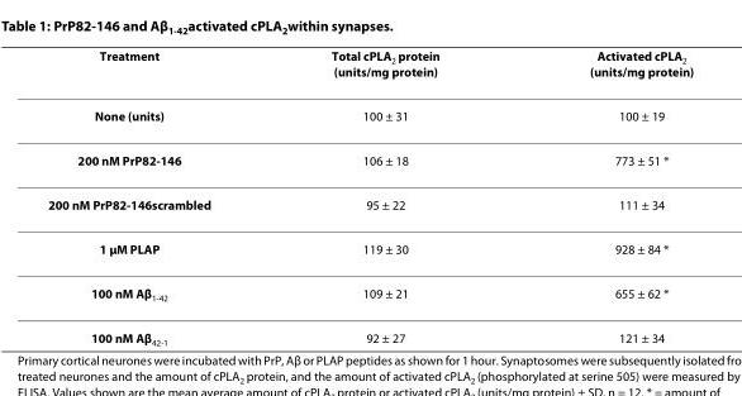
<table><thead><tr><td>Treatment</td><td>Total cPLA<sub>2</sub> protein (units/mg protein)</td><td>Activated cPLA<sub>2</sub> (units/mg protein)</td></tr></thead><tbody><tr><td>None (units)</td><td>100 ± 31</td><td>100 ± 19</td></tr><tr><td>200 nM PrP82-146</td><td>106 ± 18</td><td>773 ± 51 *</td></tr><tr><td>200 nM PrP82-146scrambled</td><td>95 ± 22</td><td>111 ± 34</td></tr><tr><td>1 μM PLAP</td><td>119 ± 30</td><td>928 ± 84 *</td></tr><tr><td>100 nM Aβ<sub>1-42</sub></td><td>109 ± 21</td><td>655 ± 62 *</td></tr><tr><td>100 nM Aβ<sub>42-1</sub></td><td>92 ± 27</td><td>121 ± 34</td></tr></tbody></table>